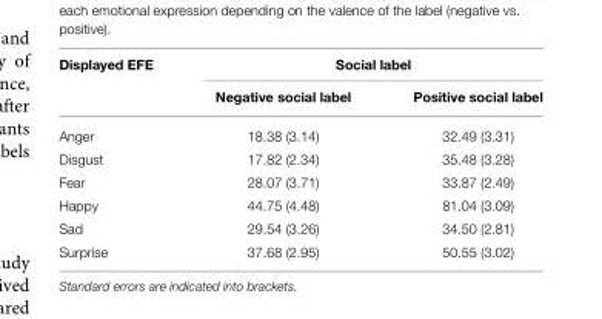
<table><thead><tr><td rowspan="2">Displayed EFE</td><td colspan="2">Social label</td></tr><tr><td>Negative social label</td><td>Positive social label</td></tr></thead><tbody><tr><td>Anger</td><td>18.38 (3.14)</td><td>32.49 (3.31)</td></tr><tr><td>Disgust</td><td>17.82 (2.34)</td><td>35.48 (3.28)</td></tr><tr><td>Fear</td><td>28.07 (3.71)</td><td>33.87 (2.49)</td></tr><tr><td>Happy</td><td>44.75 (4.48)</td><td>81.04 (3.09)</td></tr><tr><td>Sad</td><td>29.54 (3.26)</td><td>34.50 (2.81)</td></tr><tr><td>Surprise</td><td>37.68 (2.95)</td><td>50.55 (3.02)</td></tr></tbody></table>